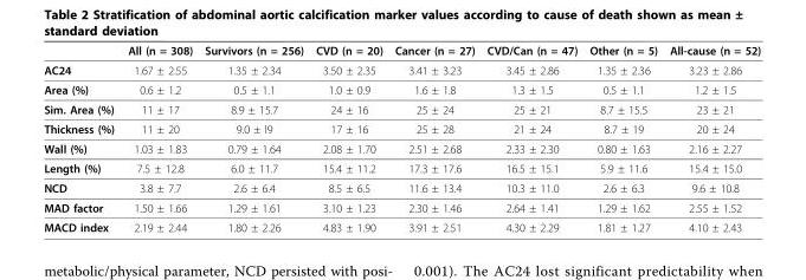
<table><thead><tr><td></td><td>All (n = 308)</td><td>Survivors (n = 256)</td><td>CVD (n = 20)</td><td>Cancer (n = 27)</td><td>CVD/Can (n = 47)</td><td>Other (n = 5)</td><td>All-cause (n = 52)</td></tr></thead><tbody><tr><td>AC24</td><td>1.67 ± 2.55</td><td>1.35 ± 2.34</td><td>3.50 ± 2.35</td><td>3.41 ± 3.23</td><td>3.45 ± 2.86</td><td>1.35 ± 2.36</td><td>3.23 ± 2.86</td></tr><tr><td>Area (%)</td><td>0.6 ± 1.2</td><td>0.5 ± 1.1</td><td>1.0 ± 0.9</td><td>1.6 ± 1.8</td><td>1.3 ± 1.5</td><td>0.5 ± 1.1</td><td>1.2 ± 1.5</td></tr><tr><td>Sim. Area (%)</td><td>11 ± 17</td><td>8.9 ± 15.7</td><td>24 ± 16</td><td>25 ± 24</td><td>25 ± 21</td><td>8.7 ± 15.5</td><td>23 ± 21</td></tr><tr><td>Thickness (%)</td><td>11 ± 20</td><td>9.0 ± l9</td><td>17 ± 16</td><td>25 ± 28</td><td>21 ± 24</td><td>8.7 ± 19</td><td>20 ± 24</td></tr><tr><td>Wall (%)</td><td>1.03 ± 1.83</td><td>0.79 ± 1.64</td><td>2.08 ± 1.70</td><td>2.51 ± 2.68</td><td>2.33 ± 2.30</td><td>0.80 ± 1.63</td><td>2.16 ± 2.27</td></tr><tr><td>Length (%)</td><td>7.5 ± 12.8</td><td>6.0 ± 11.7</td><td>15.4 ± 11.2</td><td>17.3 ± 17.6</td><td>16.5 ± 15.1</td><td>5.9 ± 11.6</td><td>15.4 ± 15.0</td></tr><tr><td>NCD</td><td>3.8 ± 7.7</td><td>2.6 ± 6.4</td><td>8.5 ± 6.5</td><td>11.6 ± 13.4</td><td>10.3 ± 11.0</td><td>2.6 ± 6.3</td><td>9.6 ± 10.8</td></tr><tr><td>MAD factor</td><td>1.50 ± 1.66</td><td>1.29 ± 1.61</td><td>3.10 ± 1.23</td><td>2.30 ± 1.46</td><td>2.64 ± 1.41</td><td>1.29 ± 1.62</td><td>2.55 ± 1.52</td></tr><tr><td>MACD index</td><td>2.19 ± 2.44</td><td>1.80 ± 2.26</td><td>4.83 ± 1.90</td><td>3.91 ± 2.51</td><td>4.30 ± 2.29</td><td>1.81 ± 1.27</td><td>4.10 ± 2.43</td></tr></tbody></table>